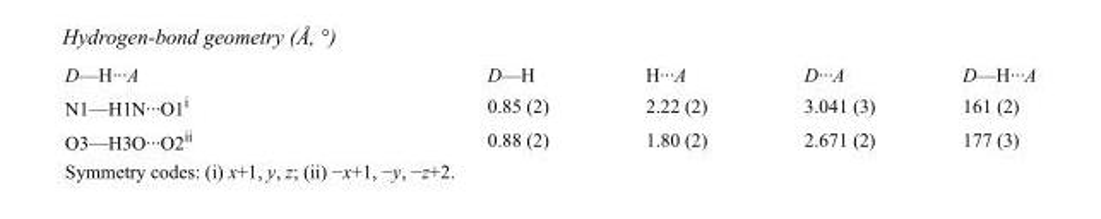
<table><tbody><tr><td>D—H···A</td><td>D—H</td><td>H···A</td><td>D···A</td><td>D—H···A</td></tr><tr><td>N1—H1N···O1<sup>i</sup></td><td>0.85 (2)</td><td>2.22 (2)</td><td>3.041 (3)</td><td>161 (2)</td></tr><tr><td>O3—H3O···O2<sup>ii</sup></td><td>0.88 (2)</td><td>1.80 (2)</td><td>2.671 (2)</td><td>177 (3)</td></tr></tbody></table>